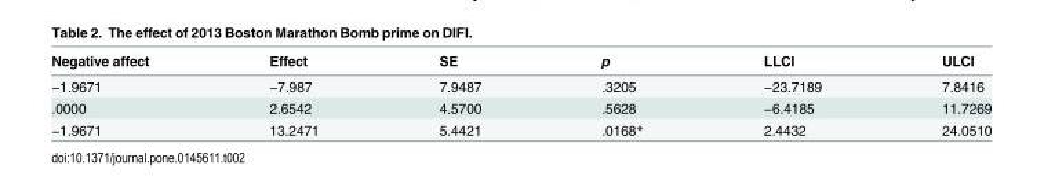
<table><thead><tr><td>Negative affect</td><td>Effect</td><td>SE</td><td>p</td><td>LLCI</td><td>ULCI</td></tr></thead><tbody><tr><td>−1.9671</td><td>−7.987</td><td>7.9487</td><td>.3205</td><td>−23.7189</td><td>7.8416</td></tr><tr><td>.0000</td><td>2.6542</td><td>4.5700</td><td>.5628</td><td>−6.4185</td><td>11.7269</td></tr><tr><td>−1.9671</td><td>13.2471</td><td>5.4421</td><td>.0168*</td><td>2.4432</td><td>24.0510</td></tr></tbody></table>